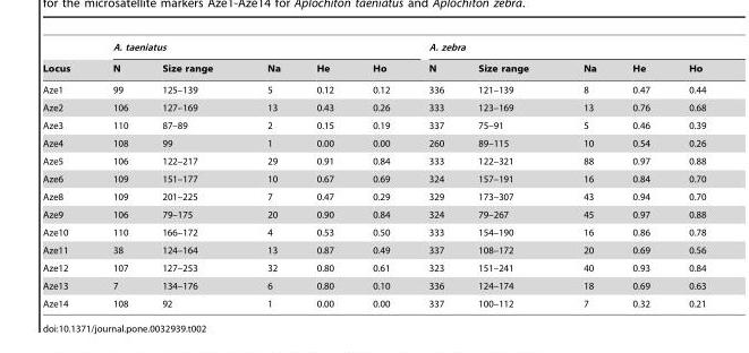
<table><thead><tr><td rowspan="2">Locus</td><td colspan="5">A. taeniatus</td><td colspan="5">A. zebra</td></tr><tr><td>N</td><td>Size range</td><td>Na</td><td>He</td><td>Ho</td><td>N</td><td>Size range</td><td>Na</td><td>He</td><td>Ho</td></tr></thead><tbody><tr><td>Aze1</td><td>99</td><td>125–139</td><td>5</td><td>0.12</td><td>0.12</td><td>336</td><td>121–139</td><td>8</td><td>0.47</td><td>0.44</td></tr><tr><td>Aze2</td><td>106</td><td>127–169</td><td>13</td><td>0.43</td><td>0.26</td><td>333</td><td>123–169</td><td>13</td><td>0.76</td><td>0.68</td></tr><tr><td>Aze3</td><td>110</td><td>87–89</td><td>2</td><td>0.15</td><td>0.19</td><td>337</td><td>75–91</td><td>5</td><td>0.46</td><td>0.39</td></tr><tr><td>Aze4</td><td>108</td><td>99</td><td>1</td><td>0.00</td><td>0.00</td><td>260</td><td>89–115</td><td>10</td><td>0.54</td><td>0.26</td></tr><tr><td>Aze5</td><td>106</td><td>122–217</td><td>29</td><td>0.91</td><td>0.84</td><td>333</td><td>122–321</td><td>88</td><td>0.97</td><td>0.88</td></tr><tr><td>Aze6</td><td>109</td><td>151–177</td><td>10</td><td>0.67</td><td>0.69</td><td>324</td><td>157–191</td><td>16</td><td>0.84</td><td>0.70</td></tr><tr><td>Aze8</td><td>109</td><td>201–225</td><td>7</td><td>0.47</td><td>0.29</td><td>329</td><td>173–307</td><td>43</td><td>0.94</td><td>0.70</td></tr><tr><td>Aze9</td><td>106</td><td>79–175</td><td>20</td><td>0.90</td><td>0.84</td><td>324</td><td>79–267</td><td>45</td><td>0.97</td><td>0.88</td></tr><tr><td>Aze10</td><td>110</td><td>166–172</td><td>4</td><td>0.53</td><td>0.50</td><td>333</td><td>154–190</td><td>16</td><td>0.86</td><td>0.78</td></tr><tr><td>Aze11</td><td>38</td><td>124–164</td><td>13</td><td>0.87</td><td>0.49</td><td>337</td><td>108–172</td><td>20</td><td>0.69</td><td>0.56</td></tr><tr><td>Aze12</td><td>107</td><td>127–253</td><td>32</td><td>0.80</td><td>0.61</td><td>323</td><td>151–241</td><td>40</td><td>0.93</td><td>0.84</td></tr><tr><td>Aze13</td><td>7</td><td>134–176</td><td>6</td><td>0.80</td><td>0.10</td><td>336</td><td>124–174</td><td>18</td><td>0.69</td><td>0.63</td></tr><tr><td>Aze14</td><td>108</td><td>92</td><td>1</td><td>0.00</td><td>0.00</td><td>337</td><td>100–112</td><td>7</td><td>0.32</td><td>0.21</td></tr></tbody></table>